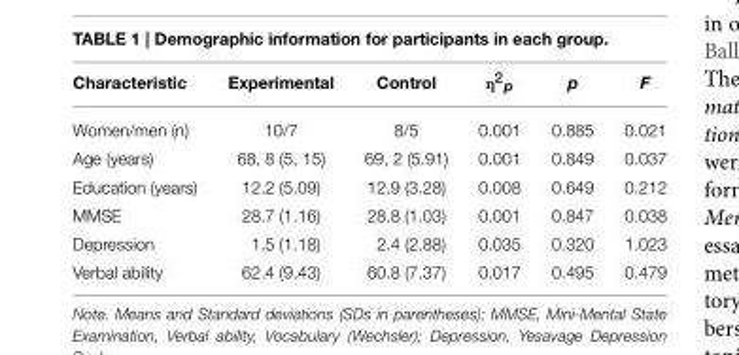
<table><thead><tr><td>Characteristic</td><td>Experimental</td><td>Control</td><td>η<sup>2</sup><sub>p</sub></td><td>p</td><td>F</td></tr></thead><tbody><tr><td>Women/men (n)</td><td>10/7</td><td>8/5</td><td>0.001</td><td>0.885</td><td>0.021</td></tr><tr><td>Age (years)</td><td>68, 8 (5, 15)</td><td>69, 2 (5.91)</td><td>0.001</td><td>0.849</td><td>0.037</td></tr><tr><td>Education (years)</td><td>12.2 (5.09)</td><td>12.9 (3.28)</td><td>0.008</td><td>0.649</td><td>0.212</td></tr><tr><td>MMSE</td><td>28.7 (1.16)</td><td>28.8 (1.03)</td><td>0.001</td><td>0.847</td><td>0.038</td></tr><tr><td>Depression</td><td>1.5 (1.18)</td><td>2.4 (2.88)</td><td>0.035</td><td>0.320</td><td>1.023</td></tr><tr><td>Verbal ability</td><td>62.4 (9.43)</td><td>60.8 (7.37)</td><td>0.017</td><td>0.495</td><td>0.479</td></tr></tbody></table>